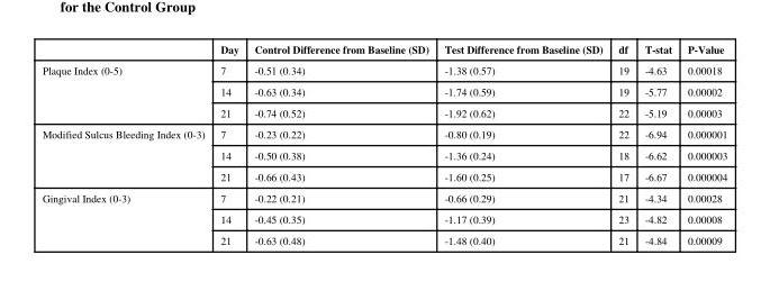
<table><thead><tr><td></td><td>Day</td><td>Control Difference from Baseline (SD)</td><td>Test Difference from Baseline (SD)</td><td>df</td><td>T-stat</td><td>P-Value</td></tr></thead><tbody><tr><td rowspan="3">Plaque Index (0-5)</td><td>7</td><td>-0.51 (0.34)</td><td>-1.38 (0.57)</td><td>19</td><td>-4.63</td><td>0.00018</td></tr><tr><td>14</td><td>-0.63 (0.34)</td><td>-1.74 (0.59)</td><td>19</td><td>-5.77</td><td>0.00002</td></tr><tr><td>21</td><td>-0.74 (0.52)</td><td>-1.92 (0.62)</td><td>22</td><td>-5.19</td><td>0.00003</td></tr><tr><td rowspan="3">Modified Sulcus Bleeding Index (0-3)</td><td>7</td><td>-0.23 (0.22)</td><td>-0.80 (0.19)</td><td>22</td><td>-6.94</td><td>0.000001</td></tr><tr><td>14</td><td>-0.50 (0.38)</td><td>-1.36 (0.24)</td><td>18</td><td>-6.62</td><td>0.000003</td></tr><tr><td>21</td><td>-0.66 (0.43)</td><td>-1.60 (0.25)</td><td>17</td><td>-6.67</td><td>0.000004</td></tr><tr><td rowspan="3">Gingival Index (0-3)</td><td>7</td><td>-0.22 (0.21)</td><td>-0.66 (0.29)</td><td>21</td><td>-4.34</td><td>0.00028</td></tr><tr><td>14</td><td>-0.45 (0.35)</td><td>-1.17 (0.39)</td><td>23</td><td>-4.82</td><td>0.00008</td></tr><tr><td>21</td><td>-0.63 (0.48)</td><td>-1.48 (0.40)</td><td>21</td><td>-4.84</td><td>0.00009</td></tr></tbody></table>